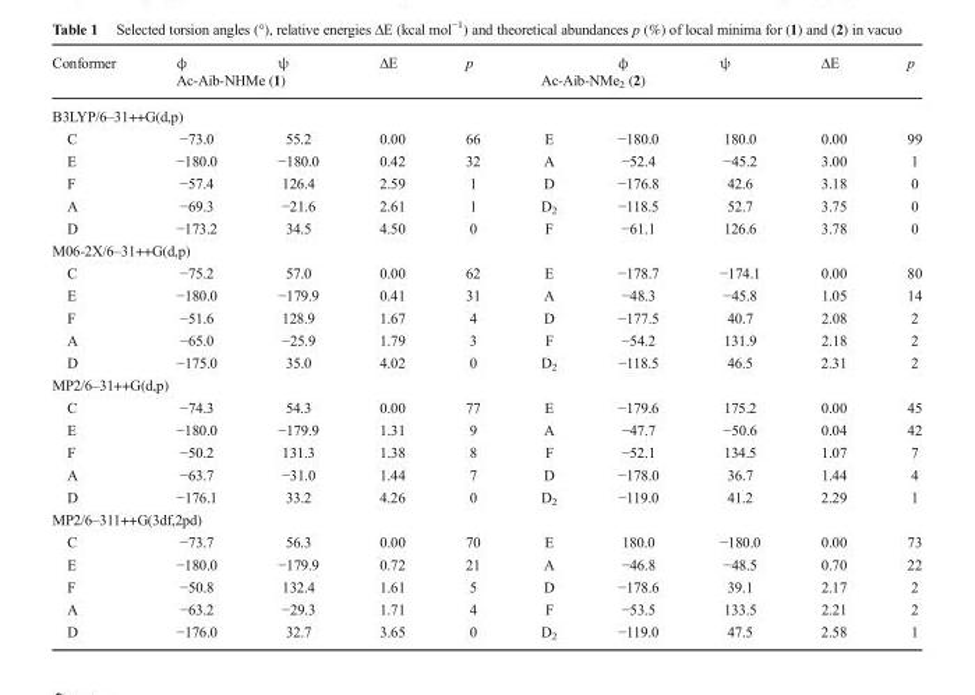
<table><thead><tr><td rowspan="2">Conformer</td><td>ϕ</td><td>ψ</td><td>ΔE</td><td>p</td><td></td><td>ϕ</td><td>ψ</td><td>ΔE</td><td>p</td></tr><tr><td colspan="4">Ac-Aib-NHMe (1)</td><td colspan="5">Ac-Aib-NMe<sub>2</sub> (2)</td></tr></thead><tbody><tr><td colspan="10">B3LYP/6–31++G(d,p)</td></tr><tr><td>C</td><td>−73.0</td><td>55.2</td><td>0.00</td><td>66</td><td>E</td><td>−180.0</td><td>180.0</td><td>0.00</td><td>99</td></tr><tr><td>E</td><td>−180.0</td><td>−180.0</td><td>0.42</td><td>32</td><td>A</td><td>−52.4</td><td>−45.2</td><td>3.00</td><td>1</td></tr><tr><td>F</td><td>−57.4</td><td>126.4</td><td>2.59</td><td>1</td><td>D</td><td>−176.8</td><td>42.6</td><td>3.18</td><td>0</td></tr><tr><td>A</td><td>−69.3</td><td>−21.6</td><td>2.61</td><td>1</td><td>D<sub>2</sub></td><td>−118.5</td><td>52.7</td><td>3.75</td><td>0</td></tr><tr><td>D</td><td>−173.2</td><td>34.5</td><td>4.50</td><td>0</td><td>F</td><td>−61.1</td><td>126.6</td><td>3.78</td><td>0</td></tr><tr><td colspan="10">M06-2X/6–31++G(d,p)</td></tr><tr><td>C</td><td>−75.2</td><td>57.0</td><td>0.00</td><td>62</td><td>E</td><td>−178.7</td><td>−174.1</td><td>0.00</td><td>80</td></tr><tr><td>E</td><td>−180.0</td><td>−179.9</td><td>0.41</td><td>31</td><td>A</td><td>−48.3</td><td>−45.8</td><td>1.05</td><td>14</td></tr><tr><td>F</td><td>−51.6</td><td>128.9</td><td>1.67</td><td>4</td><td>D</td><td>−177.5</td><td>40.7</td><td>2.08</td><td>2</td></tr><tr><td>A</td><td>−65.0</td><td>−25.9</td><td>1.79</td><td>3</td><td>F</td><td>−54.2</td><td>131.9</td><td>2.18</td><td>2</td></tr><tr><td>D</td><td>−175.0</td><td>35.0</td><td>4.02</td><td>0</td><td>D<sub>2</sub></td><td>−118.5</td><td>46.5</td><td>2.31</td><td>2</td></tr><tr><td colspan="10">MP2/6–31++G(d,p)</td></tr><tr><td>C</td><td>−74.3</td><td>54.3</td><td>0.00</td><td>77</td><td>E</td><td>−179.6</td><td>175.2</td><td>0.00</td><td>45</td></tr><tr><td>E</td><td>−180.0</td><td>−179.9</td><td>1.31</td><td>9</td><td>A</td><td>−47.7</td><td>−50.6</td><td>0.04</td><td>42</td></tr><tr><td>F</td><td>−50.2</td><td>131.3</td><td>1.38</td><td>8</td><td>F</td><td>−52.1</td><td>134.5</td><td>1.07</td><td>7</td></tr><tr><td>A</td><td>−63.7</td><td>−31.0</td><td>1.44</td><td>7</td><td>D</td><td>−178.0</td><td>36.7</td><td>1.44</td><td>4</td></tr><tr><td>D</td><td>−176.1</td><td>33.2</td><td>4.26</td><td>0</td><td>D<sub>2</sub></td><td>−119.0</td><td>41.2</td><td>2.29</td><td>1</td></tr><tr><td colspan="10">MP2/6–311++G(3df,2pd)</td></tr><tr><td>C</td><td>−73.7</td><td>56.3</td><td>0.00</td><td>70</td><td>E</td><td>180.0</td><td>−180.0</td><td>0.00</td><td>73</td></tr><tr><td>E</td><td>−180.0</td><td>−179.9</td><td>0.72</td><td>21</td><td>A</td><td>−46.8</td><td>−48.5</td><td>0.70</td><td>22</td></tr><tr><td>F</td><td>−50.8</td><td>132.4</td><td>1.61</td><td>5</td><td>D</td><td>−178.6</td><td>39.1</td><td>2.17</td><td>2</td></tr><tr><td>A</td><td>−63.2</td><td>−29.3</td><td>1.71</td><td>4</td><td>F</td><td>−53.5</td><td>133.5</td><td>2.21</td><td>2</td></tr><tr><td>D</td><td>−176.0</td><td>32.7</td><td>3.65</td><td>0</td><td>D<sub>2</sub></td><td>−119.0</td><td>47.5</td><td>2.58</td><td>1</td></tr></tbody></table>